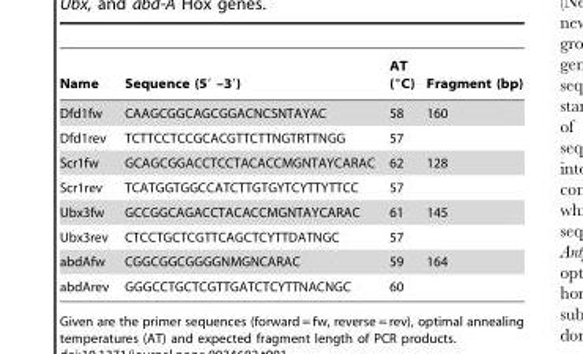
<table><thead><tr><td>Name</td><td>Sequence (5′ –3′)</td><td>AT (°C)</td><td>Fragment (bp)</td></tr></thead><tbody><tr><td>Dfd1fw</td><td>CAAGCGGCAGCGGACNCSNTAYAC</td><td>58</td><td>160</td></tr><tr><td>Dfd1rev</td><td>TCTTCCTCCGCACGTTCTTNGTRTTNGG</td><td>57</td><td></td></tr><tr><td>Scr1fw</td><td>GCAGCGGACCTCCTACACCMGNTAYCARAC</td><td>62</td><td>128</td></tr><tr><td>Scr1rev</td><td>TCATGGTGGCCATCTTGTGYTCYTTYTTCC</td><td>57</td><td></td></tr><tr><td>Ubx3fw</td><td>GCCGGCAGACCTACACCMGNTAYCARAC</td><td>61</td><td>145</td></tr><tr><td>Ubx3rev</td><td>CTCCTGCTCGTTCAGCTCYTTDATNGC</td><td>57</td><td></td></tr><tr><td>abdAfw</td><td>CGGCGGCGGGGNMGNCARAC</td><td>59</td><td>164</td></tr><tr><td>abdArev</td><td>GGGCCTGCTCGTTGATCTCYTTNACNGC</td><td>60</td><td></td></tr></tbody></table>